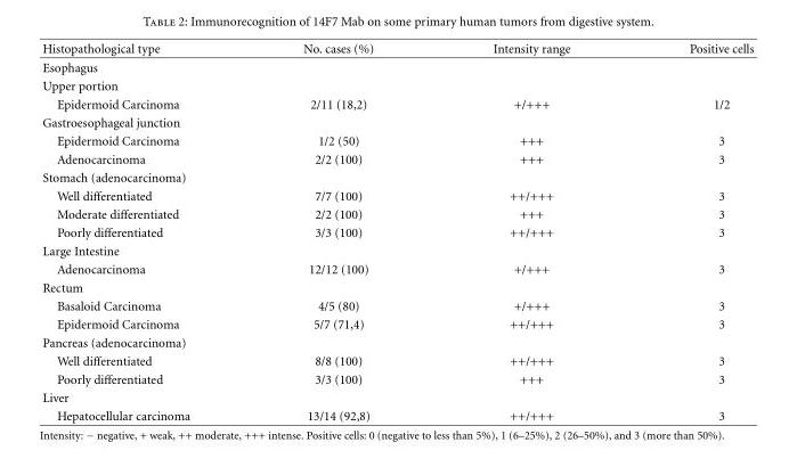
<table><thead><tr><td>Histopathological type</td><td>No. cases (%)</td><td>Intensity range</td><td>Positive cells</td></tr></thead><tbody><tr><td colspan="4">Esophagus</td></tr><tr><td colspan="4">Upper portion</td></tr><tr><td>Epidermoid Carcinoma</td><td>2/11 (18,2)</td><td>+/+++</td><td>1/2</td></tr><tr><td colspan="4">Gastroesophageal junction</td></tr><tr><td>Epidermoid Carcinoma</td><td>1/2 (50)</td><td>+++</td><td>3</td></tr><tr><td>Adenocarcinoma</td><td>2/2 (100)</td><td>+++</td><td>3</td></tr><tr><td colspan="4">Stomach (adenocarcinoma)</td></tr><tr><td>Well differentiated</td><td>7/7 (100)</td><td>++/+++</td><td>3</td></tr><tr><td>Moderate differentiated</td><td>2/2 (100)</td><td>+++</td><td>3</td></tr><tr><td>Poorly differentiated</td><td>3/3 (100)</td><td>++/+++</td><td>3</td></tr><tr><td colspan="4">Large Intestine</td></tr><tr><td>Adenocarcinoma</td><td>12/12 (100)</td><td>+/+++</td><td>3</td></tr><tr><td colspan="4">Rectum</td></tr><tr><td>Basaloid Carcinoma</td><td>4/5 (80)</td><td>+/+++</td><td>3</td></tr><tr><td>Epidermoid Carcinoma</td><td>5/7 (71,4)</td><td>++/+++</td><td>3</td></tr><tr><td colspan="4">Pancreas (adenocarcinoma)</td></tr><tr><td>Well differentiated</td><td>8/8 (100)</td><td>++/+++</td><td>3</td></tr><tr><td>Poorly differentiated</td><td>3/3 (100)</td><td>+++</td><td>3</td></tr><tr><td colspan="4">Liver</td></tr><tr><td>Hepatocellular carcinoma</td><td>13/14 (92,8)</td><td>++/+++</td><td>3</td></tr></tbody></table>